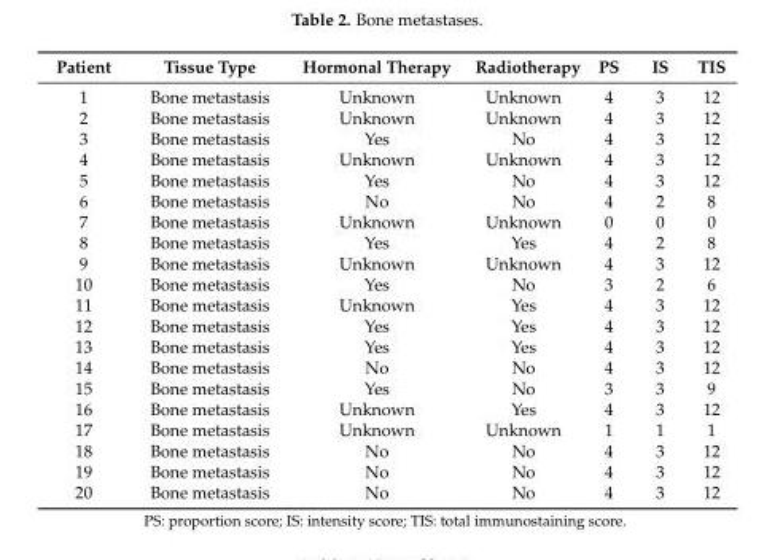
<table><thead><tr><td>Patient</td><td>Tissue Type</td><td>Hormonal Therapy</td><td>Radiotherapy</td><td>PS</td><td>IS</td><td>TIS</td></tr></thead><tbody><tr><td>1</td><td>Bone metastasis</td><td>Unknown</td><td>Unknown</td><td>4</td><td>3</td><td>12</td></tr><tr><td>2</td><td>Bone metastasis</td><td>Unknown</td><td>Unknown</td><td>4</td><td>3</td><td>12</td></tr><tr><td>3</td><td>Bone metastasis</td><td>Yes</td><td>No</td><td>4</td><td>3</td><td>12</td></tr><tr><td>4</td><td>Bone metastasis</td><td>Unknown</td><td>Unknown</td><td>4</td><td>3</td><td>12</td></tr><tr><td>5</td><td>Bone metastasis</td><td>Yes</td><td>No</td><td>4</td><td>3</td><td>12</td></tr><tr><td>6</td><td>Bone metastasis</td><td>No</td><td>No</td><td>4</td><td>2</td><td>8</td></tr><tr><td>7</td><td>Bone metastasis</td><td>Unknown</td><td>Unknown</td><td>0</td><td>0</td><td>0</td></tr><tr><td>8</td><td>Bone metastasis</td><td>Yes</td><td>Yes</td><td>4</td><td>2</td><td>8</td></tr><tr><td>9</td><td>Bone metastasis</td><td>Unknown</td><td>Unknown</td><td>4</td><td>3</td><td>12</td></tr><tr><td>10</td><td>Bone metastasis</td><td>Yes</td><td>No</td><td>3</td><td>2</td><td>6</td></tr><tr><td>11</td><td>Bone metastasis</td><td>Unknown</td><td>Yes</td><td>4</td><td>3</td><td>12</td></tr><tr><td>12</td><td>Bone metastasis</td><td>Yes</td><td>Yes</td><td>4</td><td>3</td><td>12</td></tr><tr><td>13</td><td>Bone metastasis</td><td>Yes</td><td>Yes</td><td>4</td><td>3</td><td>12</td></tr><tr><td>14</td><td>Bone metastasis</td><td>No</td><td>No</td><td>4</td><td>3</td><td>12</td></tr><tr><td>15</td><td>Bone metastasis</td><td>Yes</td><td>No</td><td>3</td><td>3</td><td>9</td></tr><tr><td>16</td><td>Bone metastasis</td><td>Unknown</td><td>Yes</td><td>4</td><td>3</td><td>12</td></tr><tr><td>17</td><td>Bone metastasis</td><td>Unknown</td><td>Unknown</td><td>1</td><td>1</td><td>1</td></tr><tr><td>18</td><td>Bone metastasis</td><td>No</td><td>No</td><td>4</td><td>3</td><td>12</td></tr><tr><td>19</td><td>Bone metastasis</td><td>No</td><td>No</td><td>4</td><td>3</td><td>12</td></tr><tr><td>20</td><td>Bone metastasis</td><td>No</td><td>No</td><td>4</td><td>3</td><td>12</td></tr></tbody></table>